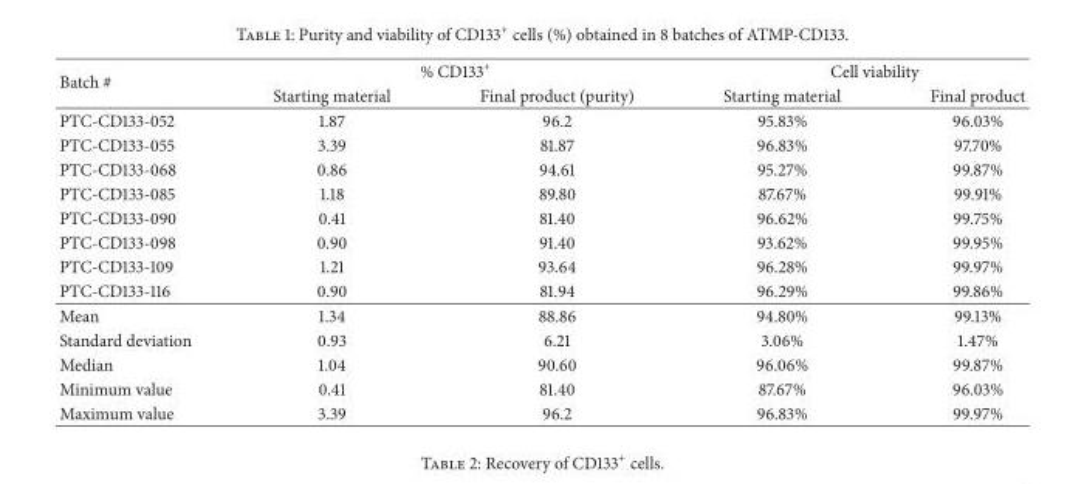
<table><thead><tr><td rowspan="2">Batch #</td><td colspan="2">% CD133<sup>+</sup></td><td colspan="2">Cell viability</td></tr><tr><td>Starting material</td><td>Final product (purity)</td><td>Starting material</td><td>Final product</td></tr></thead><tbody><tr><td>PTC-CD133-052</td><td>1.87</td><td>96.2</td><td>95.83%</td><td>96.03%</td></tr><tr><td>PTC-CD133-055</td><td>3.39</td><td>81.87</td><td>96.83%</td><td>97.70%</td></tr><tr><td>PTC-CD133-068</td><td>0.86</td><td>94.61</td><td>95.27%</td><td>99.87%</td></tr><tr><td>PTC-CD133-085</td><td>1.18</td><td>89.80</td><td>87.67%</td><td>99.91%</td></tr><tr><td>PTC-CD133-090</td><td>0.41</td><td>81.40</td><td>96.62%</td><td>99.75%</td></tr><tr><td>PTC-CD133-098</td><td>0.90</td><td>91.40</td><td>93.62%</td><td>99.95%</td></tr><tr><td>PTC-CD133-109</td><td>1.21</td><td>93.64</td><td>96.28%</td><td>99.97%</td></tr><tr><td>PTC-CD133-116</td><td>0.90</td><td>81.94</td><td>96.29%</td><td>99.86%</td></tr><tr><td>Mean</td><td>1.34</td><td>88.86</td><td>94.80%</td><td>99.13%</td></tr><tr><td>Standard deviation</td><td>0.93</td><td>6.21</td><td>3.06%</td><td>1.47%</td></tr><tr><td>Median</td><td>1.04</td><td>90.60</td><td>96.06%</td><td>99.87%</td></tr><tr><td>Minimum value</td><td>0.41</td><td>81.40</td><td>87.67%</td><td>96.03%</td></tr><tr><td>Maximum value</td><td>3.39</td><td>96.2</td><td>96.83%</td><td>99.97%</td></tr></tbody></table>